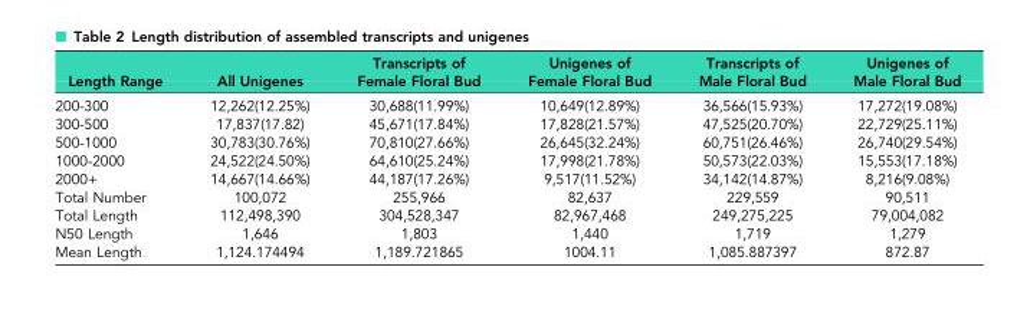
<table><thead><tr><td>Length Range</td><td>All Unigenes</td><td>Transcripts of Female Floral Bud</td><td>Unigenes of Female Floral Bud</td><td>Transcripts of Male Floral Bud</td><td>Unigenes of Male Floral Bud</td></tr></thead><tbody><tr><td>200-300</td><td>12,262(12.25%)</td><td>30,688(11.99%)</td><td>10,649(12.89%)</td><td>36,566(15.93%)</td><td>17,272(19.08%)</td></tr><tr><td>300-500</td><td>17,837(17.82)</td><td>45,671(17.84%)</td><td>17,828(21.57%)</td><td>47,525(20.70%)</td><td>22,729(25.11%)</td></tr><tr><td>500-1000</td><td>30,783(30.76%)</td><td>70,810(27.66%)</td><td>26,645(32.24%)</td><td>60,751(26.46%)</td><td>26,740(29.54%)</td></tr><tr><td>1000-2000</td><td>24,522(24.50%)</td><td>64,610(25.24%)</td><td>17,998(21.78%)</td><td>50,573(22.03%)</td><td>15,553(17.18%)</td></tr><tr><td>2000+</td><td>14,667(14.66%)</td><td>44,187(17.26%)</td><td>9,517(11.52%)</td><td>34,142(14.87%)</td><td>8,216(9.08%)</td></tr><tr><td>Total Number</td><td>100,072</td><td>255,966</td><td>82,637</td><td>229,559</td><td>90,511</td></tr><tr><td>Total Length</td><td>112,498,390</td><td>304,528,347</td><td>82,967,468</td><td>249,275,225</td><td>79,004,082</td></tr><tr><td>N50 Length</td><td>1,646</td><td>1,803</td><td>1,440</td><td>1,719</td><td>1,279</td></tr><tr><td>Mean Length</td><td>1,124.174494</td><td>1,189.721865</td><td>1004.11</td><td>1,085.887397</td><td>872.87</td></tr></tbody></table>